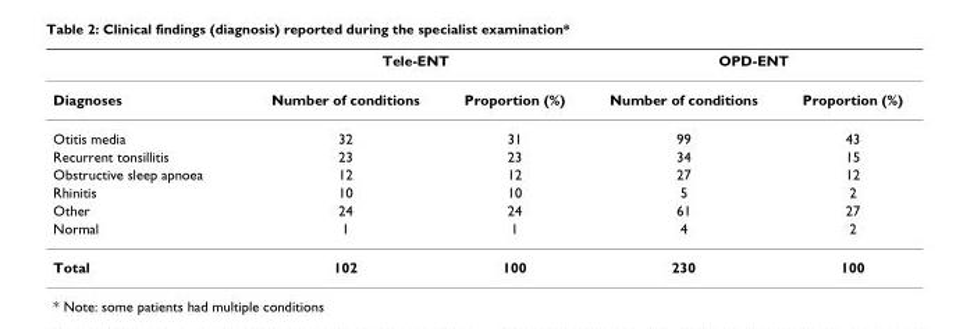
<table><thead><tr><td rowspan="2">Diagnoses</td><td colspan="2">Tele-ENT</td><td colspan="2">OPD-ENT</td></tr><tr><td>Number of conditions</td><td>Proportion (%)</td><td>Number of conditions</td><td>Proportion (%)</td></tr></thead><tbody><tr><td>Otitis media</td><td>32</td><td>31</td><td>99</td><td>43</td></tr><tr><td>Recurrent tonsillitis</td><td>23</td><td>23</td><td>34</td><td>15</td></tr><tr><td>Obstructive sleep apnoea</td><td>12</td><td>12</td><td>27</td><td>12</td></tr><tr><td>Rhinitis</td><td>10</td><td>10</td><td>5</td><td>2</td></tr><tr><td>Other</td><td>24</td><td>24</td><td>61</td><td>27</td></tr><tr><td>Normal</td><td>1</td><td>1</td><td>4</td><td>2</td></tr><tr><td>Total</td><td>102</td><td>100</td><td>230</td><td>100</td></tr></tbody></table>